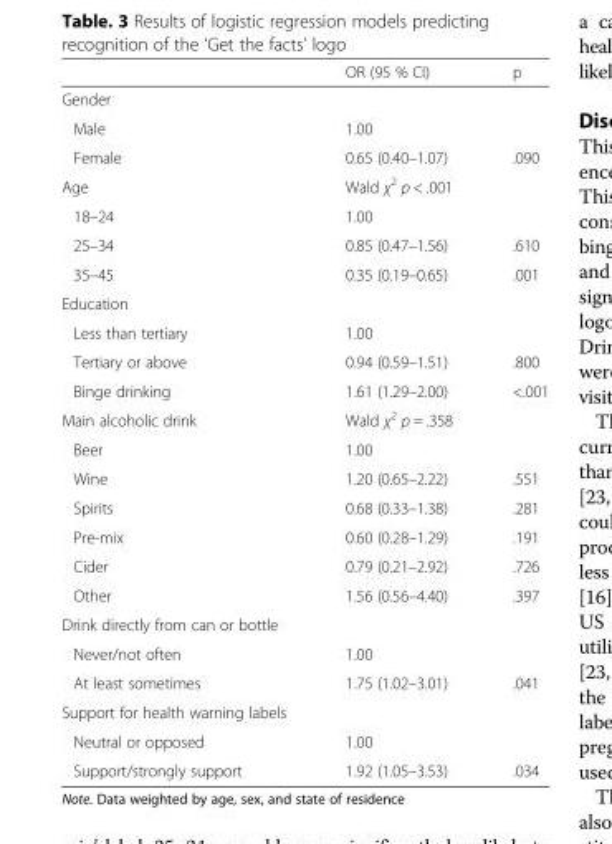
<table><thead><tr><td></td><td>OR (95 % CI)</td><td>p</td></tr></thead><tbody><tr><td colspan="3">Gender</td></tr><tr><td>Male</td><td>1.00</td><td></td></tr><tr><td>Female</td><td>0.65 (0.40–1.07)</td><td>.090</td></tr><tr><td>Age</td><td>Wald χ<sup>2</sup> p &lt; .001</td><td></td></tr><tr><td>18–24</td><td>1.00</td><td></td></tr><tr><td>25–34</td><td>0.85 (0.47–1.56)</td><td>.610</td></tr><tr><td>35–45</td><td>0.35 (0.19–0.65)</td><td>.001</td></tr><tr><td colspan="3">Education</td></tr><tr><td>Less than tertiary</td><td>1.00</td><td></td></tr><tr><td>Tertiary or above</td><td>0.94 (0.59–1.51)</td><td>.800</td></tr><tr><td>Binge drinking</td><td>1.61 (1.29–2.00)</td><td>&lt;.001</td></tr><tr><td>Main alcoholic drink</td><td>Wald χ<sup>2</sup> p = .358</td><td></td></tr><tr><td>Beer</td><td>1.00</td><td></td></tr><tr><td>Wine</td><td>1.20 (0.65–2.22)</td><td>.551</td></tr><tr><td>Spirits</td><td>0.68 (0.33–1.38)</td><td>.281</td></tr><tr><td>Pre-mix</td><td>0.60 (0.28–1.29)</td><td>.191</td></tr><tr><td>Cider</td><td>0.79 (0.21–2.92)</td><td>.726</td></tr><tr><td>Other</td><td>1.56 (0.56–4.40)</td><td>.397</td></tr><tr><td colspan="3">Drink directly from can or bottle</td></tr><tr><td>Never/not often</td><td>1.00</td><td></td></tr><tr><td>At least sometimes</td><td>1.75 (1.02–3.01)</td><td>.041</td></tr><tr><td colspan="3">Support for health warning labels</td></tr><tr><td>Neutral or opposed</td><td>1.00</td><td></td></tr><tr><td>Support/strongly support</td><td>1.92 (1.05–3.53)</td><td>.034</td></tr></tbody></table>